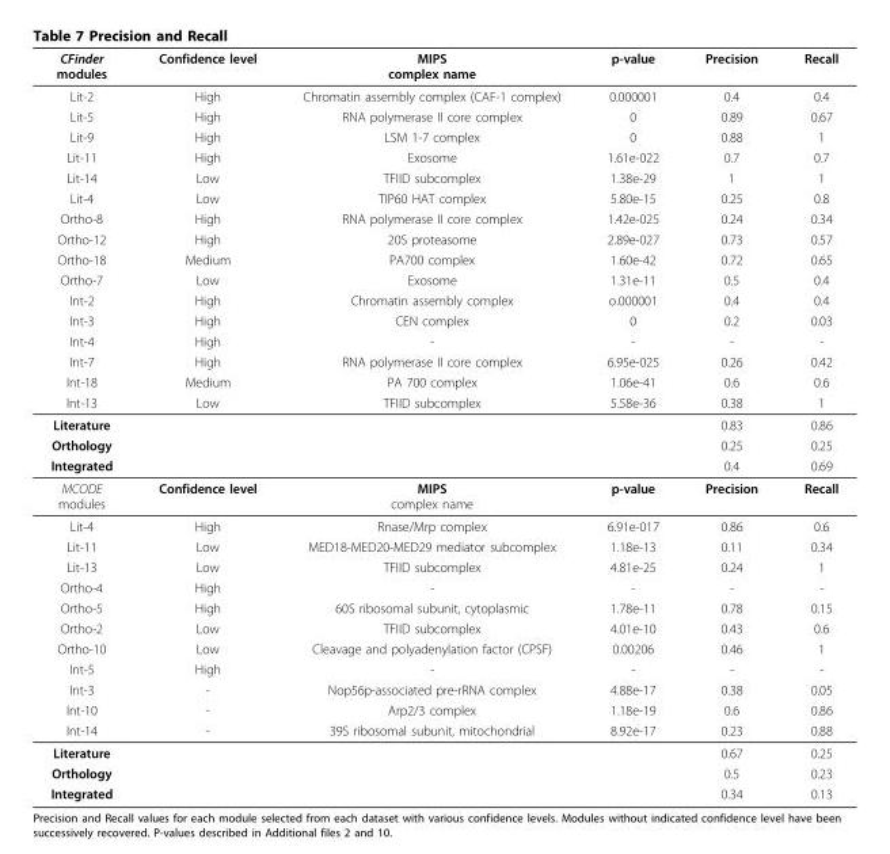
<table><thead><tr><td>CFinder modules</td><td>Confidence level</td><td>MIPS complex name</td><td>p-value</td><td>Precision</td><td>Recall</td></tr></thead><tbody><tr><td>Lit-2</td><td>High</td><td>Chromatin assembly complex (CAF-1 complex)</td><td>0.000001</td><td>0.4</td><td>0.4</td></tr><tr><td>Lit-5</td><td>High</td><td>RNA polymerase II core complex</td><td>0</td><td>0.89</td><td>0.67</td></tr><tr><td>Lit-9</td><td>High</td><td>LSM 1-7 complex</td><td>0</td><td>0.88</td><td>1</td></tr><tr><td>Lit-11</td><td>High</td><td>Exosome</td><td>1.61e-022</td><td>0.7</td><td>0.7</td></tr><tr><td>Lit-14</td><td>Low</td><td>TFIID subcomplex</td><td>1.38e-29</td><td>1</td><td>1</td></tr><tr><td>Lit-4</td><td>Low</td><td>TIP60 HAT complex</td><td>5.80e-15</td><td>0.25</td><td>0.8</td></tr><tr><td>Ortho-8</td><td>High</td><td>RNA polymerase II core complex</td><td>1.42e-025</td><td>0.24</td><td>0.34</td></tr><tr><td>Ortho-12</td><td>High</td><td>20S proteasome</td><td>2.89e-027</td><td>0.73</td><td>0.57</td></tr><tr><td>Ortho-18</td><td>Medium</td><td>PA700 complex</td><td>1.60e-42</td><td>0.72</td><td>0.65</td></tr><tr><td>Ortho-7</td><td>Low</td><td>Exosome</td><td>1.31e-11</td><td>0.5</td><td>0.4</td></tr><tr><td>Int-2</td><td>High</td><td>Chromatin assembly complex</td><td>o.000001</td><td>0.4</td><td>0.4</td></tr><tr><td>Int-3</td><td>High</td><td>CEN complex</td><td>0</td><td>0.2</td><td>0.03</td></tr><tr><td>Int-4</td><td>High</td><td>-</td><td>-</td><td>-</td><td>-</td></tr><tr><td>Int-7</td><td>High</td><td>RNA polymerase II core complex</td><td>6.95e-025</td><td>0.26</td><td>0.42</td></tr><tr><td>Int-18</td><td>Medium</td><td>PA 700 complex</td><td>1.06e-41</td><td>0.6</td><td>0.6</td></tr><tr><td>Int-13</td><td>Low</td><td>TFIID subcomplex</td><td>5.58e-36</td><td>0.38</td><td>1</td></tr><tr><td>Literature</td><td></td><td></td><td></td><td>0.83</td><td>0.86</td></tr><tr><td>Orthology</td><td></td><td></td><td></td><td>0.25</td><td>0.25</td></tr><tr><td>Integrated</td><td></td><td></td><td></td><td>0.4</td><td>0.69</td></tr><tr><td>MCODE modules</td><td>Confidence level</td><td>MIPS complex name</td><td>p-value</td><td>Precision</td><td>Recall</td></tr><tr><td>Lit-4</td><td>High</td><td>Rnase/Mrp complex</td><td>6.91e-017</td><td>0.86</td><td>0.6</td></tr><tr><td>Lit-11</td><td>Low</td><td>MED18-MED20-MED29 mediator subcomplex</td><td>1.18e-13</td><td>0.11</td><td>0.34</td></tr><tr><td>Lit-13</td><td>Low</td><td>TFIID subcomplex</td><td>4.81e-25</td><td>0.24</td><td>1</td></tr><tr><td>Ortho-4</td><td>High</td><td>-</td><td>-</td><td>-</td><td>-</td></tr><tr><td>Ortho-5</td><td>High</td><td>60S ribosomal subunit, cytoplasmic</td><td>1.78e-11</td><td>0.78</td><td>0.15</td></tr><tr><td>Ortho-2</td><td>Low</td><td>TFIID subcomplex</td><td>4.01e-10</td><td>0.43</td><td>0.6</td></tr><tr><td>Ortho-10</td><td>Low</td><td>Cleavage and polyadenylation factor (CPSF)</td><td>0.00206</td><td>0.46</td><td>1</td></tr><tr><td>Int-5</td><td>High</td><td>-</td><td>-</td><td>-</td><td>-</td></tr><tr><td>Int-3</td><td>-</td><td>Nop56p-associated pre-rRNA complex</td><td>4.88e-17</td><td>0.38</td><td>0.05</td></tr><tr><td>Int-10</td><td>-</td><td>Arp2/3 complex</td><td>1.18e-19</td><td>0.6</td><td>0.86</td></tr><tr><td>Int-14</td><td>-</td><td>39S ribosomal subunit, mitochondrial</td><td>8.92e-17</td><td>0.23</td><td>0.88</td></tr><tr><td>Literature</td><td></td><td></td><td></td><td>0.67</td><td>0.25</td></tr><tr><td>Orthology</td><td></td><td></td><td></td><td>0.5</td><td>0.23</td></tr><tr><td>Integrated</td><td></td><td></td><td></td><td>0.34</td><td>0.13</td></tr></tbody></table>